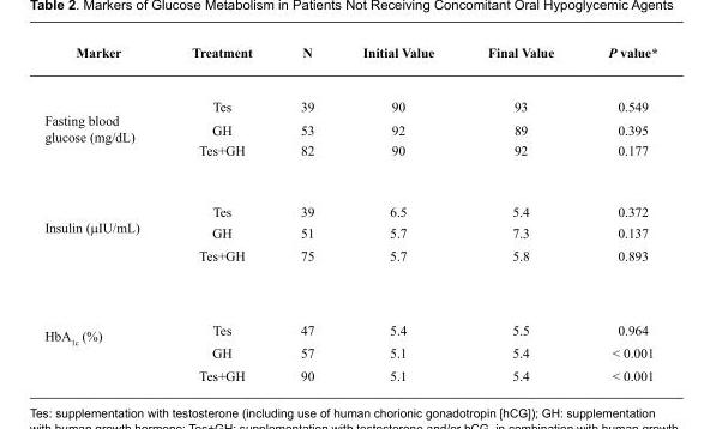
<table><thead><tr><td>Marker</td><td>Treatment</td><td>N</td><td>Initial Value</td><td>Final Value</td><td>P value*</td></tr></thead><tbody><tr><td rowspan="3">Fasting blood glucose (mg/dL)</td><td>Tes</td><td>39</td><td>90</td><td>93</td><td>0.549</td></tr><tr><td>GH</td><td>53</td><td>92</td><td>89</td><td>0.395</td></tr><tr><td>Tes+GH</td><td>82</td><td>90</td><td>92</td><td>0.177</td></tr><tr><td rowspan="3">Insulin (μIU/mL)</td><td>Tes</td><td>39</td><td>6.5</td><td>5.4</td><td>0.372</td></tr><tr><td>GH</td><td>51</td><td>5.7</td><td>7.3</td><td>0.137</td></tr><tr><td>Tes+GH</td><td>75</td><td>5.7</td><td>5.8</td><td>0.893</td></tr><tr><td rowspan="3">HbA<sub>1c</sub> (%)</td><td>Tes</td><td>47</td><td>5.4</td><td>5.5</td><td>0.964</td></tr><tr><td>GH</td><td>57</td><td>5.1</td><td>5.4</td><td>&lt; 0.001</td></tr><tr><td>Tes+GH</td><td>90</td><td>5.1</td><td>5.4</td><td>&lt; 0.001</td></tr></tbody></table>